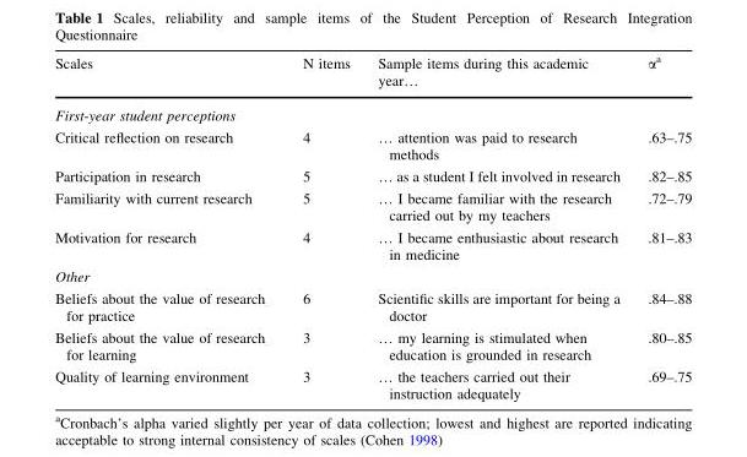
<table><thead><tr><td>Scales</td><td>N items</td><td>Sample items during this academic year…</td><td>α<sup>a</sup></td></tr></thead><tbody><tr><td colspan="4">First-year student perceptions</td></tr><tr><td>Critical reflection on research</td><td>4</td><td>… attention was paid to research methods</td><td>.63–.75</td></tr><tr><td>Participation in research</td><td>5</td><td>… as a student I felt involved in research</td><td>.82–.85</td></tr><tr><td>Familiarity with current research</td><td>5</td><td>… I became familiar with the research carried out by my teachers</td><td>.72–.79</td></tr><tr><td>Motivation for research</td><td>4</td><td>… I became enthusiastic about research in medicine</td><td>.81–.83</td></tr><tr><td colspan="4">Other</td></tr><tr><td>Beliefs about the value of research for practice</td><td>6</td><td>Scientific skills are important for being a doctor</td><td>.84–.88</td></tr><tr><td>Beliefs about the value of research for learning</td><td>3</td><td>… my learning is stimulated when education is grounded in research</td><td>.80–.85</td></tr><tr><td>Quality of learning environment</td><td>3</td><td>… the teachers carried out their instruction adequately</td><td>.69–.75</td></tr></tbody></table>